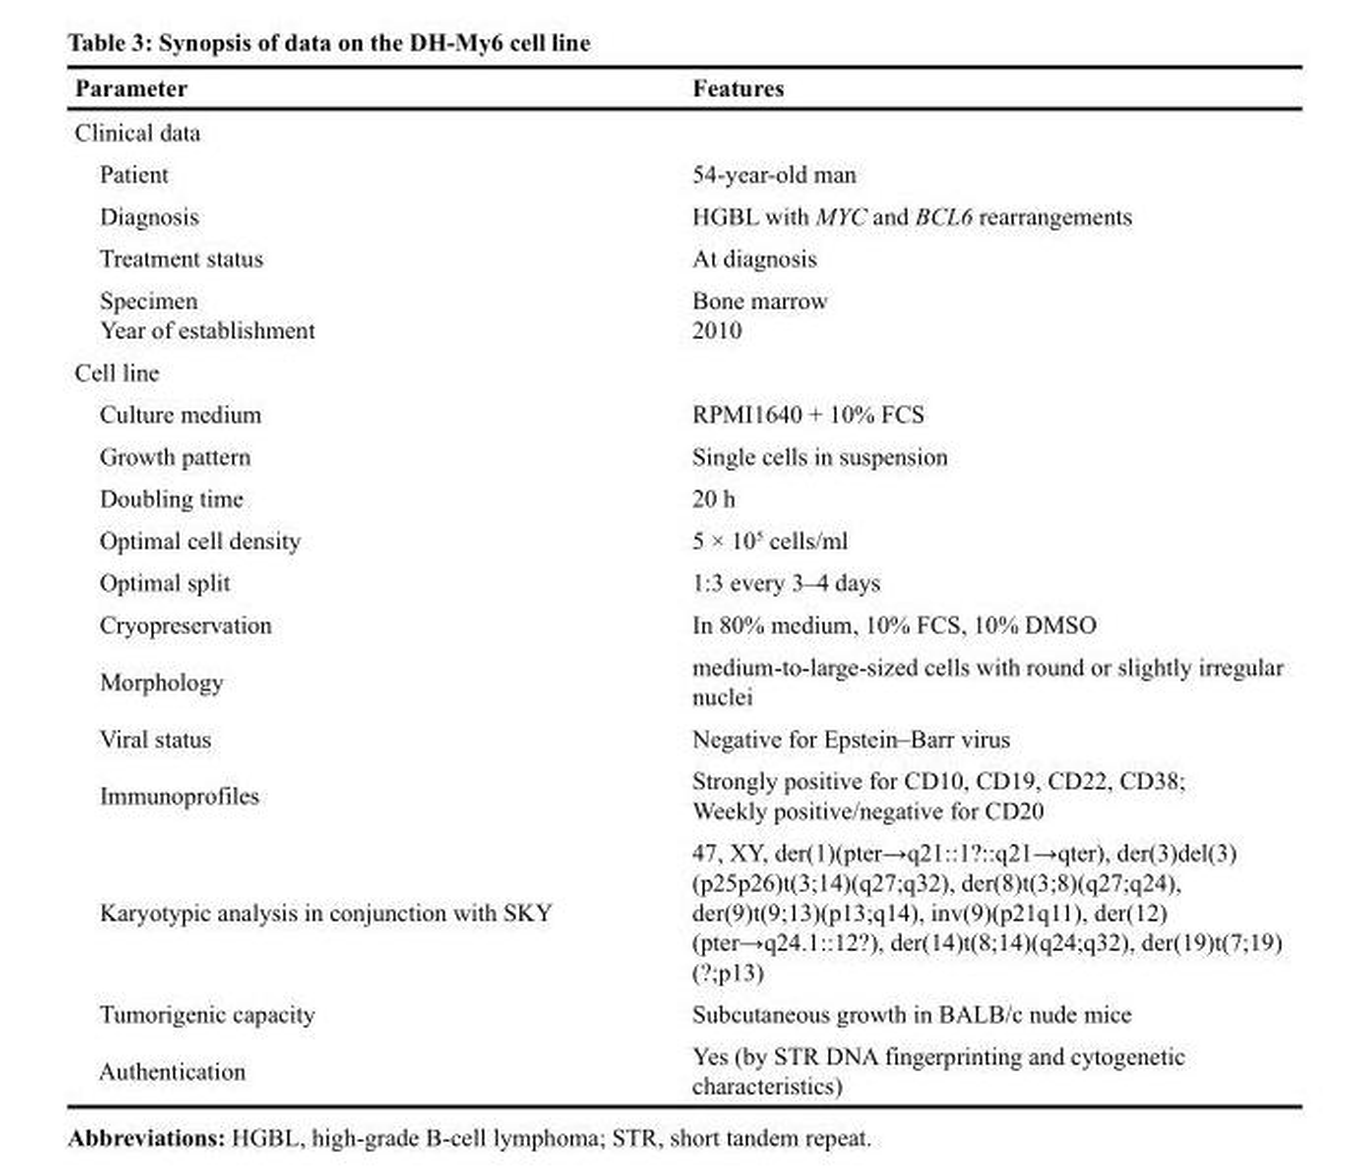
<table><thead><tr><td>Parameter</td><td>Features</td></tr></thead><tbody><tr><td colspan="2">Clinical data</td></tr><tr><td>Patient</td><td>54-year-old man</td></tr><tr><td>Diagnosis</td><td>HGBL with MYC and BCL6 rearrangements</td></tr><tr><td>Treatment status</td><td>At diagnosis</td></tr><tr><td>Specimen Year of establishment</td><td>Bone marrow 2010</td></tr><tr><td colspan="2">Cell line</td></tr><tr><td>Culture medium</td><td>RPMI1640 + 10% FCS</td></tr><tr><td>Growth pattern</td><td>Single cells in suspension</td></tr><tr><td>Doubling time</td><td>20 h</td></tr><tr><td>Optimal cell density</td><td>5 × 10<sup>5</sup> cells/ml</td></tr><tr><td>Optimal split</td><td>1:3 every 3–4 days</td></tr><tr><td>Cryopreservation</td><td>In 80% medium, 10% FCS, 10% DMSO</td></tr><tr><td>Morphology</td><td>medium-to-large-sized cells with round or slightly irregular nuclei</td></tr><tr><td>Viral status</td><td>Negative for Epstein–Barr virus</td></tr><tr><td>Immunoprofiles</td><td>Strongly positive for CD10, CD19, CD22, CD38; Weekly positive/negative for CD20</td></tr><tr><td>Karyotypic analysis in conjunction with SKY</td><td>47, XY, der(1)(pter→q21::1?::q21→qter), der(3)del(3) (p25p26)t(3;14)(q27;q32), der(8)t(3;8)(q27;q24), der(9)t(9;13)(p13;q14), inv(9)(p21q11), der(12) (pter→q24.1::12?), der(14)t(8;14)(q24;q32), der(19)t(7;19) (?;p13)</td></tr><tr><td>Tumorigenic capacity</td><td>Subcutaneous growth in BALB/c nude mice</td></tr><tr><td>Authentication</td><td>Yes (by STR DNA fingerprinting and cytogenetic characteristics)</td></tr></tbody></table>